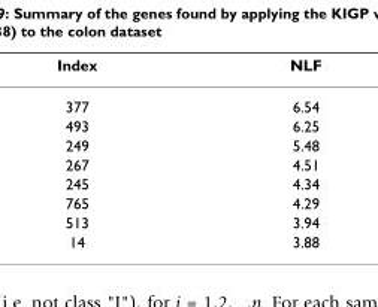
<table><thead><tr><td>Index</td><td>NLF</td></tr></thead><tbody><tr><td>377</td><td>6.54</td></tr><tr><td>493</td><td>6.25</td></tr><tr><td>249</td><td>5.48</td></tr><tr><td>267</td><td>4.51</td></tr><tr><td>245</td><td>4.34</td></tr><tr><td>765</td><td>4.29</td></tr><tr><td>513</td><td>3.94</td></tr><tr><td>14</td><td>3.88</td></tr></tbody></table>